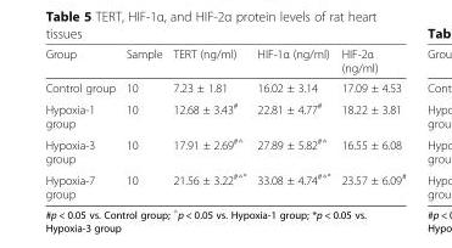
<table><thead><tr><td>Group</td><td>Sample</td><td>TERT (ng/ml)</td><td>HIF-1α (ng/ml)</td><td>HIF-2α (ng/ml)</td></tr></thead><tbody><tr><td>Control group</td><td>10</td><td>7.23 ± 1.81</td><td>16.02 ± 3.14</td><td>17.09 ± 4.53</td></tr><tr><td>Hypoxia-1 group</td><td>10</td><td>12.68 ± 3.43<sup>#</sup></td><td>22.81 ± 4.77<sup>#</sup></td><td>18.22 ± 3.81</td></tr><tr><td>Hypoxia-3 group</td><td>10</td><td>17.91 ± 2.69<sup>#△</sup></td><td>27.89 ± 5.82<sup>#△</sup></td><td>16.55 ± 6.08</td></tr><tr><td>Hypoxia-7 group</td><td>10</td><td>21.56 ± 3.22<sup>#△*</sup></td><td>33.08 ± 4.74<sup>#△*</sup></td><td>23.57 ± 6.09<sup>#</sup></td></tr></tbody></table>